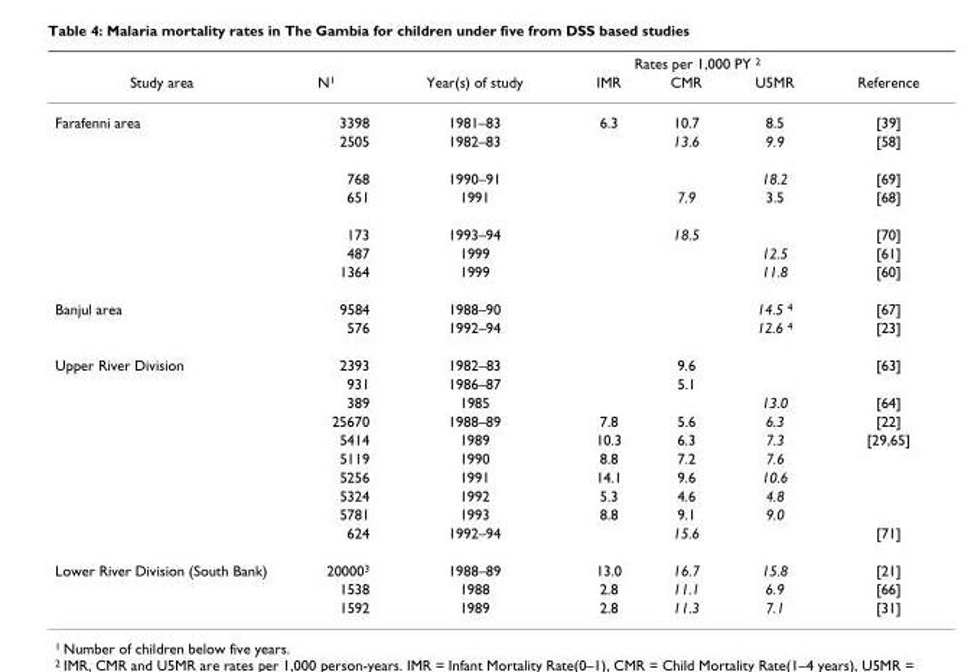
<table><thead><tr><td rowspan="2">Study area</td><td rowspan="2">N<sup>1</sup></td><td rowspan="2">Year(s) of study</td><td colspan="3">Rates per 1,000 PY <sup>2</sup></td><td rowspan="2">Reference</td></tr><tr><td>IMR</td><td>CMR</td><td>U5MR</td></tr></thead><tbody><tr><td rowspan="7">Farafenni area</td><td>3398</td><td>1981–83</td><td>6.3</td><td>10.7</td><td>8.5</td><td>[39]</td></tr><tr><td>2505</td><td>1982–83</td><td></td><td>13.6</td><td>9.9</td><td>[58]</td></tr><tr><td>768</td><td>1990–91</td><td></td><td></td><td>18.2</td><td>[69]</td></tr><tr><td>651</td><td>1991</td><td></td><td>7.9</td><td>3.5</td><td>[68]</td></tr><tr><td>173</td><td>1993–94</td><td></td><td>18.5</td><td></td><td>[70]</td></tr><tr><td>487</td><td>1999</td><td></td><td></td><td>12.5</td><td>[61]</td></tr><tr><td>1364</td><td>1999</td><td></td><td></td><td>11.8</td><td>[60]</td></tr><tr><td rowspan="2">Banjul area</td><td>9584</td><td>1988–90</td><td></td><td></td><td>14.5 <sup>4</sup></td><td>[67]</td></tr><tr><td>576</td><td>1992–94</td><td></td><td></td><td>12.6 <sup>4</sup></td><td>[23]</td></tr><tr><td rowspan="10">Upper River Division</td><td>2393</td><td>1982–83</td><td></td><td>9.6</td><td></td><td>[63]</td></tr><tr><td>931</td><td>1986–87</td><td></td><td>5.1</td><td></td><td></td></tr><tr><td>389</td><td>1985</td><td></td><td></td><td>13.0</td><td>[64]</td></tr><tr><td>25670</td><td>1988–89</td><td>7.8</td><td>5.6</td><td>6.3</td><td>[22]</td></tr><tr><td>5414</td><td>1989</td><td>10.3</td><td>6.3</td><td>7.3</td><td>[29,65]</td></tr><tr><td>5119</td><td>1990</td><td>8.8</td><td>7.2</td><td>7.6</td><td></td></tr><tr><td>5256</td><td>1991</td><td>14.1</td><td>9.6</td><td>10.6</td><td></td></tr><tr><td>5324</td><td>1992</td><td>5.3</td><td>4.6</td><td>4.8</td><td></td></tr><tr><td>5781</td><td>1993</td><td>8.8</td><td>9.1</td><td>9.0</td><td></td></tr><tr><td>624</td><td>1992–94</td><td></td><td>15.6</td><td></td><td>[71]</td></tr><tr><td rowspan="3">Lower River Division (South Bank)</td><td>20000<sup>3</sup></td><td>1988–89</td><td>13.0</td><td>16.7</td><td>15.8</td><td>[21]</td></tr><tr><td>1538</td><td>1988</td><td>2.8</td><td>11.1</td><td>6.9</td><td>[66]</td></tr><tr><td>1592</td><td>1989</td><td>2.8</td><td>11.3</td><td>7.1</td><td>[31]</td></tr></tbody></table>